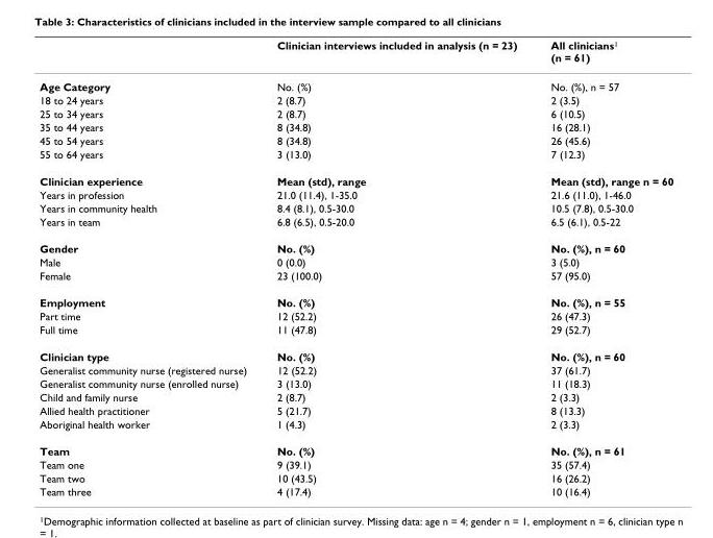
<table><thead><tr><td></td><td>Clinician interviews included in analysis (n = 23)</td><td>All clinicians<sup>1</sup> (n = 61)</td></tr></thead><tbody><tr><td>Age Category</td><td>No. (%)</td><td>No. (%), n = 57</td></tr><tr><td>18 to 24 years</td><td>2 (8.7)</td><td>2 (3.5)</td></tr><tr><td>25 to 34 years</td><td>2 (8.7)</td><td>6 (10.5)</td></tr><tr><td>35 to 44 years</td><td>8 (34.8)</td><td>16 (28.1)</td></tr><tr><td>45 to 54 years</td><td>8 (34.8)</td><td>26 (45.6)</td></tr><tr><td>55 to 64 years</td><td>3 (13.0)</td><td>7 (12.3)</td></tr><tr><td>Clinician experience</td><td>Mean (std), range</td><td>Mean (std), range n = 60</td></tr><tr><td>Years in profession</td><td>21.0 (11.4), 1-35.0</td><td>21.6 (11.0), 1-46.0</td></tr><tr><td>Years in community health</td><td>8.4 (8.1), 0.5-30.0</td><td>10.5 (7.8), 0.5-30.0</td></tr><tr><td>Years in team</td><td>6.8 (6.5), 0.5-20.0</td><td>6.5 (6.1), 0.5-22</td></tr><tr><td>Gender</td><td>No. (%)</td><td>No. (%), n = 60</td></tr><tr><td>Male</td><td>0 (0.0)</td><td>3 (5.0)</td></tr><tr><td>Female</td><td>23 (100.0)</td><td>57 (95.0)</td></tr><tr><td>Employment</td><td>No. (%)</td><td>No. (%), n = 55</td></tr><tr><td>Part time</td><td>12 (52.2)</td><td>26 (47.3)</td></tr><tr><td>Full time</td><td>11 (47.8)</td><td>29 (52.7)</td></tr><tr><td>Clinician type</td><td>No. (%)</td><td>No. (%), n = 60</td></tr><tr><td>Generalist community nurse (registered nurse)</td><td>12 (52.2)</td><td>37 (61.7)</td></tr><tr><td>Generalist community nurse (enrolled nurse)</td><td>3 (13.0)</td><td>11 (18.3)</td></tr><tr><td>Child and family nurse</td><td>2 (8.7)</td><td>2 (3.3)</td></tr><tr><td>Allied health practitioner</td><td>5 (21.7)</td><td>8 (13.3)</td></tr><tr><td>Aboriginal health worker</td><td>1 (4.3)</td><td>2 (3.3)</td></tr><tr><td>Team</td><td>No. (%)</td><td>No. (%), n = 61</td></tr><tr><td>Team one</td><td>9 (39.1)</td><td>35 (57.4)</td></tr><tr><td>Team two</td><td>10 (43.5)</td><td>16 (26.2)</td></tr><tr><td>Team three</td><td>4 (17.4)</td><td>10 (16.4)</td></tr></tbody></table>